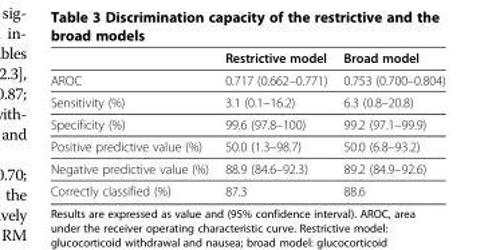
<table><thead><tr><td></td><td>Restrictive model</td><td>Broad model</td></tr></thead><tbody><tr><td>AROC</td><td>0.717 (0.662–0.771)</td><td>0.753 (0.700–0.804)</td></tr><tr><td>Sensitivity (%)</td><td>3.1 (0.1–16.2)</td><td>6.3 (0.8–20.8)</td></tr><tr><td>Specificity (%)</td><td>99.6 (97.8–100)</td><td>99.2 (97.1–99.9)</td></tr><tr><td>Positive predictive value (%)</td><td>50.0 (1.3–98.7)</td><td>50.0 (6.8–93.2)</td></tr><tr><td>Negative predictive value (%)</td><td>88.9 (84.6–92.3)</td><td>89.2 (84.9–92.6)</td></tr><tr><td>Correctly classified (%)</td><td>87.3</td><td>88.6</td></tr></tbody></table>